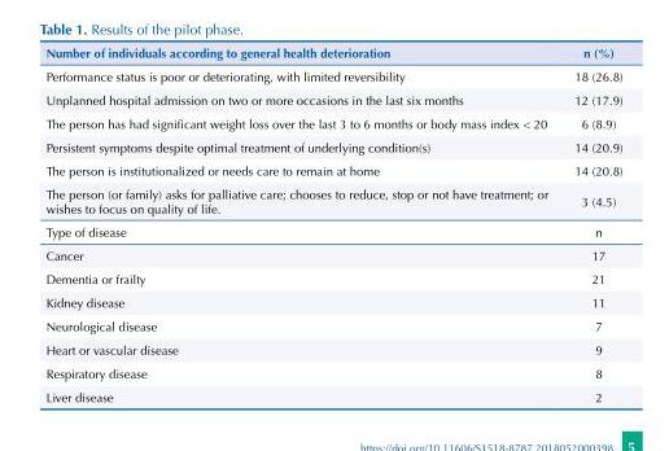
<table><thead><tr><td>Number of individuals according to general health deterioration</td><td>n (%)</td></tr></thead><tbody><tr><td>Performance status is poor or deteriorating, with limited reversibility</td><td>18 (26.8)</td></tr><tr><td>Unplanned hospital admission on two or more occasions in the last six months</td><td>12 (17.9)</td></tr><tr><td>The person has had significant weight loss over the last 3 to 6 months or body mass index &lt; 20</td><td>6 (8.9)</td></tr><tr><td>Persistent symptoms despite optimal treatment of underlying condition(s)</td><td>14 (20.9)</td></tr><tr><td>The person is institutionalized or needs care to remain at home</td><td>14 (20.8)</td></tr><tr><td>The person (or family) asks for palliative care; chooses to reduce, stop or not have treatment; or wishes to focus on quality of life.</td><td>3 (4.5)</td></tr><tr><td>Type of disease</td><td>n</td></tr><tr><td>Cancer</td><td>17</td></tr><tr><td>Dementia or frailty</td><td>21</td></tr><tr><td>Kidney disease</td><td>11</td></tr><tr><td>Neurological disease</td><td>7</td></tr><tr><td>Heart or vascular disease</td><td>9</td></tr><tr><td>Respiratory disease</td><td>8</td></tr><tr><td>Liver disease</td><td>2</td></tr></tbody></table>